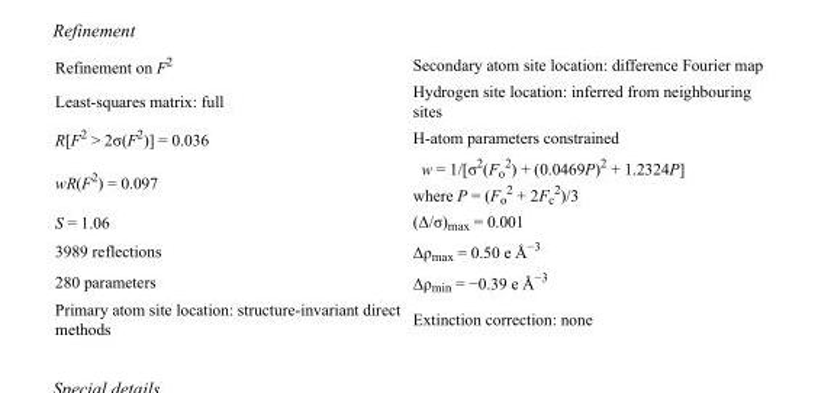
<table><tbody><tr><td>Refinement on F<sup>2</sup></td><td>Secondary atom site location: difference Fourier map</td></tr><tr><td>Least-squares matrix: full</td><td>Hydrogen site location: inferred from neighbouring sites</td></tr><tr><td>R[F<sup>2</sup> &gt; 2σ(F<sup>2</sup>)] = 0.036</td><td>H-atom parameters constrained</td></tr><tr><td>wR(F<sup>2</sup>) = 0.097</td><td>w = 1/[σ<sup>2</sup>(F<sub>o</sub> <sup>2</sup>) + (0.0469P)<sup>2</sup> + 1.2324P] where P = (F<sub>o</sub> <sup>2</sup> + 2F<sub>c</sub> <sup>2</sup>)/3</td></tr><tr><td>S = 1.06</td><td>(Δ/σ)<sub>max</sub> = 0.001</td></tr><tr><td>3989 reflections</td><td>Δρ<sub>max</sub> = 0.50 e Å<sup>−3</sup></td></tr><tr><td>280 parameters</td><td>Δρ<sub>min</sub> = −0.39 e Å<sup>−3</sup></td></tr><tr><td>Primary atom site location: structure-invariant direct methods</td><td>Extinction correction: none</td></tr></tbody></table>